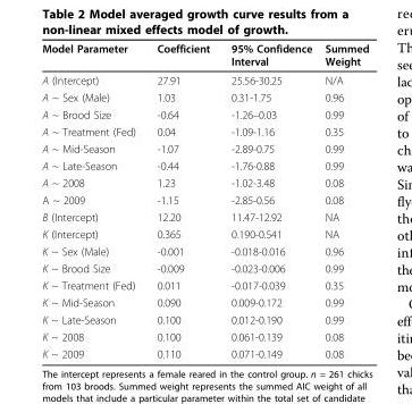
<table><thead><tr><td>Model Parameter</td><td>Coefficient</td><td>95% Confidence Interval</td><td>Summed Weight</td></tr></thead><tbody><tr><td>A (Intercept)</td><td>27.91</td><td>25.56-30.25</td><td>N/A</td></tr><tr><td>A ~ Sex (Male)</td><td>1.03</td><td>0.31-1.75</td><td>0.96</td></tr><tr><td>A ~ Brood Size</td><td>-0.64</td><td>-1.26–0.03</td><td>0.99</td></tr><tr><td>A ~ Treatment (Fed)</td><td>0.04</td><td>-1.09-1.16</td><td>0.35</td></tr><tr><td>A ~ Mid-Season</td><td>-1.07</td><td>-2.89-0.75</td><td>0.99</td></tr><tr><td>A ~ Late-Season</td><td>-0.44</td><td>-1.76-0.88</td><td>0.99</td></tr><tr><td>A ~ 2008</td><td>1.23</td><td>-1.02-3.48</td><td>0.08</td></tr><tr><td>A ~ 2009</td><td>-1.15</td><td>-2.85-0.56</td><td>0.08</td></tr><tr><td>B (Intercept)</td><td>12.20</td><td>11.47-12.92</td><td>NA</td></tr><tr><td>K (Intercept)</td><td>0.365</td><td>0.190-0.541</td><td>NA</td></tr><tr><td>K ~ Sex (Male)</td><td>-0.001</td><td>-0.018-0.016</td><td>0.96</td></tr><tr><td>K ~ Brood Size</td><td>-0.009</td><td>-0.023-0.006</td><td>0.99</td></tr><tr><td>K ~ Treatment (Fed)</td><td>0.011</td><td>-0.017-0.039</td><td>0.35</td></tr><tr><td>K ~ Mid-Season</td><td>0.090</td><td>0.009-0.172</td><td>0.99</td></tr><tr><td>K ~ Late-Season</td><td>0.100</td><td>0.012-0.190</td><td>0.99</td></tr><tr><td>K ~ 2008</td><td>0.100</td><td>0.061-0.139</td><td>0.08</td></tr><tr><td>K ~ 2009</td><td>0.110</td><td>0.071-0.149</td><td>0.08</td></tr></tbody></table>